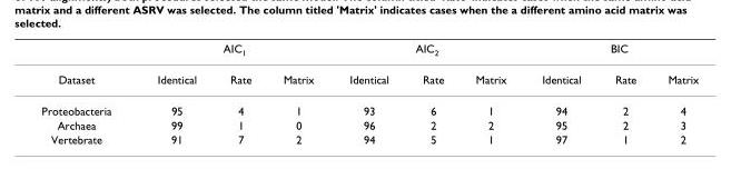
<table><thead><tr><td rowspan="2">Dataset</td><td colspan="3">AIC<sub>1</sub></td><td colspan="3">AIC<sub>2</sub></td><td colspan="3">BIC</td></tr><tr><td>Identical</td><td>Rate</td><td>Matrix</td><td>Identical</td><td>Rate</td><td>Matrix</td><td>Identical</td><td>Rate</td><td>Matrix</td></tr></thead><tbody><tr><td>Proteobacteria</td><td>95</td><td>4</td><td>1</td><td>93</td><td>6</td><td>1</td><td>94</td><td>2</td><td>4</td></tr><tr><td>Archaea</td><td>99</td><td>1</td><td>0</td><td>96</td><td>2</td><td>2</td><td>95</td><td>2</td><td>3</td></tr><tr><td>Vertebrate</td><td>91</td><td>7</td><td>2</td><td>94</td><td>5</td><td>1</td><td>97</td><td>1</td><td>2</td></tr></tbody></table>